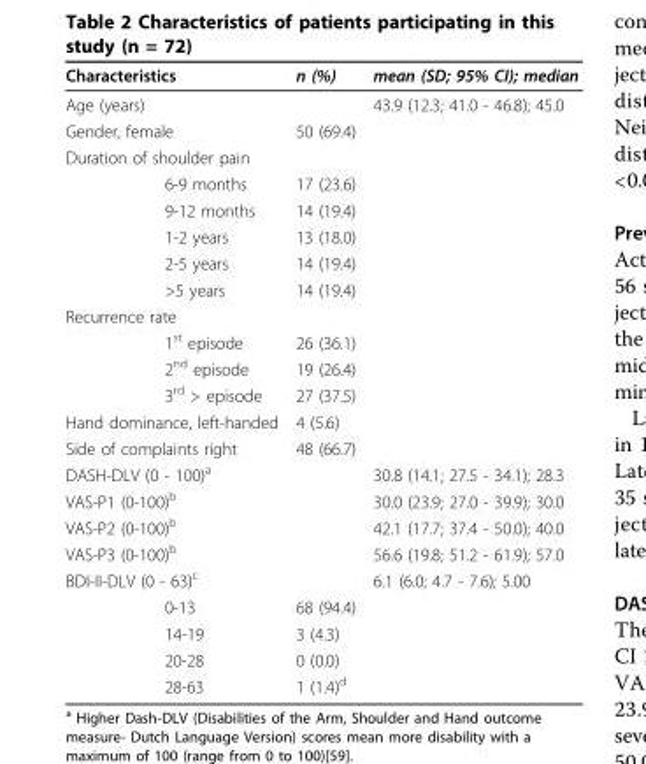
<table><thead><tr><td>Characteristics</td><td>n (%)</td><td>mean (SD; 95% CI); median</td></tr></thead><tbody><tr><td>Age (years)</td><td></td><td>43.9 (12.3; 41.0 - 46.8); 45.0</td></tr><tr><td>Gender, female</td><td>50 (69.4)</td><td></td></tr><tr><td colspan="3">Duration of shoulder pain</td></tr><tr><td>6-9 months</td><td>17 (23.6)</td><td></td></tr><tr><td>9-12 months</td><td>14 (19.4)</td><td></td></tr><tr><td>1-2 years</td><td>13 (18.0)</td><td></td></tr><tr><td>2-5 years</td><td>14 (19.4)</td><td></td></tr><tr><td>&gt;5 years</td><td>14 (19.4)</td><td></td></tr><tr><td colspan="3">Recurrence rate</td></tr><tr><td>1<sup>st</sup> episode</td><td>26 (36.1)</td><td></td></tr><tr><td>2<sup>nd</sup> episode</td><td>19 (26.4)</td><td></td></tr><tr><td>3<sup>rd</sup> &gt; episode</td><td>27 (37.5)</td><td></td></tr><tr><td>Hand dominance, left-handed</td><td>4 (5.6)</td><td></td></tr><tr><td>Side of complaints right</td><td>48 (66.7)</td><td></td></tr><tr><td>DASH-DLV (0 - 100)<sup>a</sup></td><td></td><td>30.8 (14.1; 27.5 - 34.1); 28.3</td></tr><tr><td>VAS-P1 (0-100)<sup>b</sup></td><td></td><td>30.0 (23.9; 27.0 - 39.9); 30.0</td></tr><tr><td>VAS-P2 (0-100)<sup>b</sup></td><td></td><td>42.1 (17.7; 37.4 - 50.0); 40.0</td></tr><tr><td>VAS-P3 (0-100)<sup>b</sup></td><td></td><td>56.6 (19.8; 51.2 - 61.9); 57.0</td></tr><tr><td>BDI-II-DLV (0 - 63)<sup>c</sup></td><td></td><td>6.1 (6.0; 4.7 - 7.6); 5.00</td></tr><tr><td>0-13</td><td>68 (94.4)</td><td></td></tr><tr><td>14-19</td><td>3 (4.3)</td><td></td></tr><tr><td>20-28</td><td>0 (0.0)</td><td></td></tr><tr><td>28-63</td><td>1 (1.4)<sup>d</sup></td><td></td></tr></tbody></table>